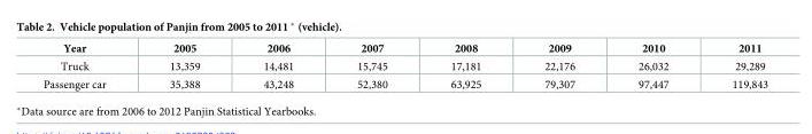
<table><thead><tr><td>Year</td><td>2005</td><td>2006</td><td>2007</td><td>2008</td><td>2009</td><td>2010</td><td>2011</td></tr></thead><tbody><tr><td>Truck</td><td>13,359</td><td>14,481</td><td>15,745</td><td>17,181</td><td>22,176</td><td>26,032</td><td>29,289</td></tr><tr><td>Passenger car</td><td>35,388</td><td>43,248</td><td>52,380</td><td>63,925</td><td>79,307</td><td>97,447</td><td>119,843</td></tr></tbody></table>